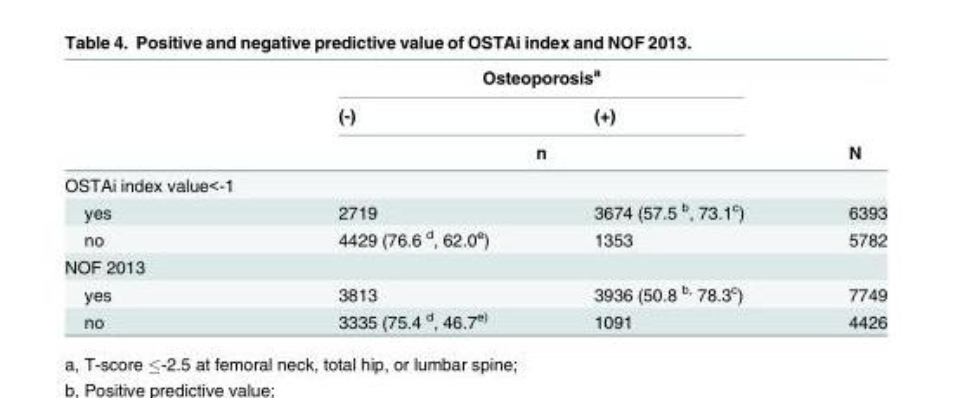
<table><thead><tr><td rowspan="3"></td><td colspan="2">Osteoporosis<sup>a</sup></td><td rowspan="3">N</td></tr><tr><td>(-)</td><td>(+)</td></tr><tr><td colspan="2">n</td></tr></thead><tbody><tr><td colspan="4">OSTAi index value&lt;-1</td></tr><tr><td>yes</td><td>2719</td><td>3674 (57.5 <sup>b</sup>, 73.1<sup>c</sup>)</td><td>6393</td></tr><tr><td>no</td><td>4429 (76.6 <sup>d</sup>, 62.0<sup>e</sup>)</td><td>1353</td><td>5782</td></tr><tr><td colspan="4">NOF 2013</td></tr><tr><td>yes</td><td>3813</td><td>3936 (50.8 <sup>b,</sup> 78.3<sup>c</sup>)</td><td>7749</td></tr><tr><td>no</td><td>3335 (75.4 <sup>d</sup>, 46.7<sup>e)</sup></td><td>1091</td><td>4426</td></tr></tbody></table>